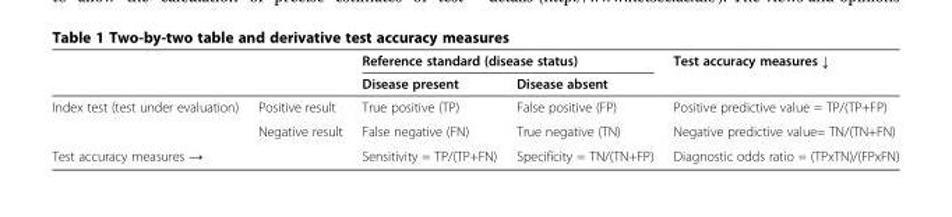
<table><thead><tr><td rowspan="2"></td><td rowspan="2"></td><td colspan="2">Reference standard (disease status)</td><td rowspan="2">Test accuracy measures ↓</td></tr><tr><td>Disease present</td><td>Disease absent</td></tr></thead><tbody><tr><td rowspan="2">Index test (test under evaluation)</td><td>Positive result</td><td>True positive (TP)</td><td>False positive (FP)</td><td>Positive predictive value = TP/(TP+FP)</td></tr><tr><td>Negative result</td><td>False negative (FN)</td><td>True negative (TN)</td><td>Negative predictive value= TN/(TN+FN)</td></tr><tr><td colspan="2">Test accuracy measures →</td><td>Sensitivity = TP/(TP+FN)</td><td>Specificity = TN/(TN+FP)</td><td>Diagnostic odds ratio = (TPxTN)/(FPxFN)</td></tr></tbody></table>